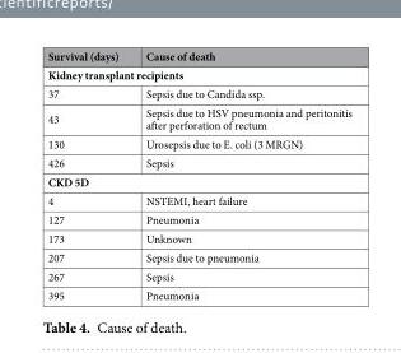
<table><thead><tr><td>Survival (days)</td><td>Cause of death</td></tr></thead><tbody><tr><td colspan="2">Kidney transplant recipients</td></tr><tr><td>37</td><td>Sepsis due to Candida ssp.</td></tr><tr><td>43</td><td>Sepsis due to HSV pneumonia and peritonitis after perforation of rectum</td></tr><tr><td>130</td><td>Urosepsis due to E. coli (3 MRGN)</td></tr><tr><td>426</td><td>Sepsis</td></tr><tr><td colspan="2">CKD 5D</td></tr><tr><td>4</td><td>NSTEMI, heart failure</td></tr><tr><td>127</td><td>Pneumonia</td></tr><tr><td>173</td><td>Unknown</td></tr><tr><td>207</td><td>Sepsis due to pneumonia</td></tr><tr><td>267</td><td>Sepsis</td></tr><tr><td>395</td><td>Pneumonia</td></tr></tbody></table>